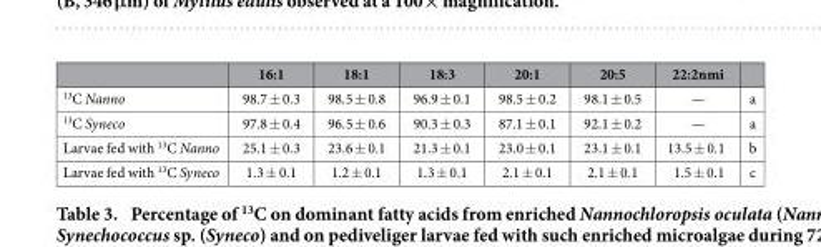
<table><thead><tr><td></td><td>16:1</td><td>18:1</td><td>18:3</td><td>20:1</td><td>20:5</td><td>22:2nmi</td><td></td></tr></thead><tbody><tr><td><sup>13</sup>C Nanno</td><td>98.7 ± 0.3</td><td>98.5 ± 0.8</td><td>96.9 ± 0.1</td><td>98.5 ± 0.2</td><td>98.1 ± 0.5</td><td>—</td><td>a</td></tr><tr><td><sup>13</sup>C Syneco</td><td>97.8 ± 0.4</td><td>96.5 ± 0.6</td><td>90.3 ± 0.3</td><td>87.1 ± 0.1</td><td>92.1 ± 0.2</td><td>—</td><td>a</td></tr><tr><td>Larvae fed with <sup>13</sup>C Nanno</td><td>25.1 ± 0.3</td><td>23.6 ± 0.1</td><td>21.3 ± 0.1</td><td>23.0 ± 0.1</td><td>23.1 ± 0.1</td><td>13.5 ± 0.1</td><td>b</td></tr><tr><td>Larvae fed with <sup>13</sup>C Syneco</td><td>1.3 ± 0.1</td><td>1.2 ± 0.1</td><td>1.3 ± 0.1</td><td>2.1 ± 0.1</td><td>2.1 ± 0.1</td><td>1.5 ± 0.1</td><td>c</td></tr></tbody></table>